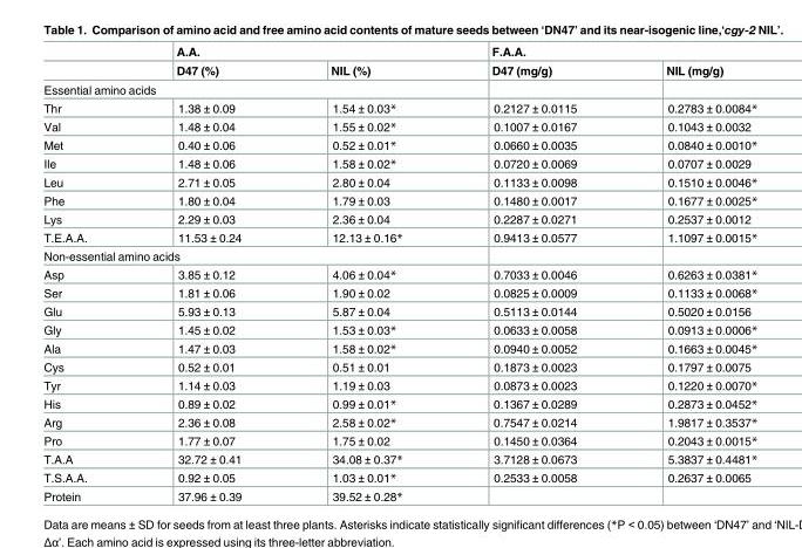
<table><thead><tr><td rowspan="2"></td><td colspan="2">A.A.</td><td colspan="2">F.A.A.</td></tr><tr><td>D47 (%)</td><td>NIL (%)</td><td>D47 (mg/g)</td><td>NIL (mg/g)</td></tr></thead><tbody><tr><td colspan="5">Essential amino acids</td></tr><tr><td>Thr</td><td>1.38 ± 0.09</td><td>1.54 ± 0.03*</td><td>0.2127 ± 0.0115</td><td>0.2783 ± 0.0084*</td></tr><tr><td>Val</td><td>1.48 ± 0.04</td><td>1.55 ± 0.02*</td><td>0.1007 ± 0.0167</td><td>0.1043 ± 0.0032</td></tr><tr><td>Met</td><td>0.40 ± 0.06</td><td>0.52 ± 0.01*</td><td>0.0660 ± 0.0035</td><td>0.0840 ± 0.0010*</td></tr><tr><td>Ile</td><td>1.48 ± 0.06</td><td>1.58 ± 0.02*</td><td>0.0720 ± 0.0069</td><td>0.0707 ± 0.0029</td></tr><tr><td>Leu</td><td>2.71 ± 0.05</td><td>2.80 ± 0.04</td><td>0.1133 ± 0.0098</td><td>0.1510 ± 0.0046*</td></tr><tr><td>Phe</td><td>1.80 ± 0.04</td><td>1.79 ± 0.03</td><td>0.1480 ± 0.0017</td><td>0.1677 ± 0.0025*</td></tr><tr><td>Lys</td><td>2.29 ± 0.03</td><td>2.36 ± 0.04</td><td>0.2287 ± 0.0271</td><td>0.2537 ± 0.0012</td></tr><tr><td>T.E.A.A.</td><td>11.53 ± 0.24</td><td>12.13 ± 0.16*</td><td>0.9413 ± 0.0577</td><td>1.1097 ± 0.0015*</td></tr><tr><td colspan="5">Non-essential amino acids</td></tr><tr><td>Asp</td><td>3.85 ± 0.12</td><td>4.06 ± 0.04*</td><td>0.7033 ± 0.0046</td><td>0.6263 ± 0.0381*</td></tr><tr><td>Ser</td><td>1.81 ± 0.06</td><td>1.90 ± 0.02</td><td>0.0825 ± 0.0009</td><td>0.1133 ± 0.0068*</td></tr><tr><td>Glu</td><td>5.93 ± 0.13</td><td>5.87 ± 0.04</td><td>0.5113 ± 0.0144</td><td>0.5020 ± 0.0156</td></tr><tr><td>Gly</td><td>1.45 ± 0.02</td><td>1.53 ± 0.03*</td><td>0.0633 ± 0.0058</td><td>0.0913 ± 0.0006*</td></tr><tr><td>Ala</td><td>1.47 ± 0.03</td><td>1.58 ± 0.02*</td><td>0.0940 ± 0.0052</td><td>0.1663 ± 0.0045*</td></tr><tr><td>Cys</td><td>0.52 ± 0.01</td><td>0.51 ± 0.01</td><td>0.1873 ± 0.0023</td><td>0.1797 ± 0.0075</td></tr><tr><td>Tyr</td><td>1.14 ± 0.03</td><td>1.19 ± 0.03</td><td>0.0873 ± 0.0023</td><td>0.1220 ± 0.0070*</td></tr><tr><td>His</td><td>0.89 ± 0.02</td><td>0.99 ± 0.01*</td><td>0.1367 ± 0.0289</td><td>0.2873 ± 0.0452*</td></tr><tr><td>Arg</td><td>2.36 ± 0.08</td><td>2.58 ± 0.02*</td><td>0.7547 ± 0.0214</td><td>1.9817 ± 0.3537*</td></tr><tr><td>Pro</td><td>1.77 ± 0.07</td><td>1.75 ± 0.02</td><td>0.1450 ± 0.0364</td><td>0.2043 ± 0.0015*</td></tr><tr><td>T.A.A</td><td>32.72 ± 0.41</td><td>34.08 ± 0.37*</td><td>3.7128 ± 0.0673</td><td>5.3837 ± 0.4481*</td></tr><tr><td>T.S.A.A.</td><td>0.92 ± 0.05</td><td>1.03 ± 0.01*</td><td>0.2533 ± 0.0058</td><td>0.2637 ± 0.0065</td></tr><tr><td>Protein</td><td>37.96 ± 0.39</td><td>39.52 ± 0.28*</td><td></td><td></td></tr></tbody></table>